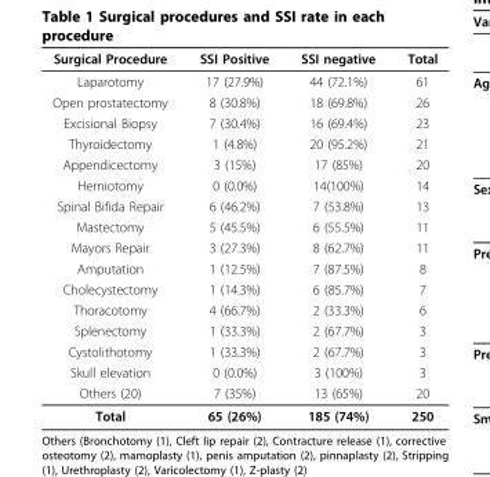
<table><thead><tr><td>Surgical Procedure</td><td>SSI Positive</td><td>SSI negative</td><td>Total</td></tr></thead><tbody><tr><td>Laparotomy</td><td>17 (27.9%)</td><td>44 (72.1%)</td><td>61</td></tr><tr><td>Open prostatectomy</td><td>8 (30.8%)</td><td>18 (69.8%)</td><td>26</td></tr><tr><td>Excisional Biopsy</td><td>7 (30.4%)</td><td>16 (69.4%)</td><td>23</td></tr><tr><td>Thyroidectomy</td><td>1 (4.8%)</td><td>20 (95.2%)</td><td>21</td></tr><tr><td>Appendicectomy</td><td>3 (15%)</td><td>17 (85%)</td><td>20</td></tr><tr><td>Herniotomy</td><td>0 (0.0%)</td><td>14(100%)</td><td>14</td></tr><tr><td>Spinal Bifida Repair</td><td>6 (46.2%)</td><td>7 (53.8%)</td><td>13</td></tr><tr><td>Mastectomy</td><td>5 (45.5%)</td><td>6 (55.5%)</td><td>11</td></tr><tr><td>Mayors Repair</td><td>3 (27.3%)</td><td>8 (62.7%)</td><td>11</td></tr><tr><td>Amputation</td><td>1 (12.5%)</td><td>7 (87.5%)</td><td>8</td></tr><tr><td>Cholecystectomy</td><td>1 (14.3%)</td><td>6 (85.7%)</td><td>7</td></tr><tr><td>Thoracotomy</td><td>4 (66.7%)</td><td>2 (33.3%)</td><td>6</td></tr><tr><td>Splenectomy</td><td>1 (33.3%)</td><td>2 (67.7%)</td><td>3</td></tr><tr><td>Cystolithotomy</td><td>1 (33.3%)</td><td>2 (67.7%)</td><td>3</td></tr><tr><td>Skull elevation</td><td>0 (0.0%)</td><td>3 (100%)</td><td>3</td></tr><tr><td>Others (20)</td><td>7 (35%)</td><td>13 (65%)</td><td>20</td></tr><tr><td>Total</td><td>65 (26%)</td><td>185 (74%)</td><td>250</td></tr></tbody></table>